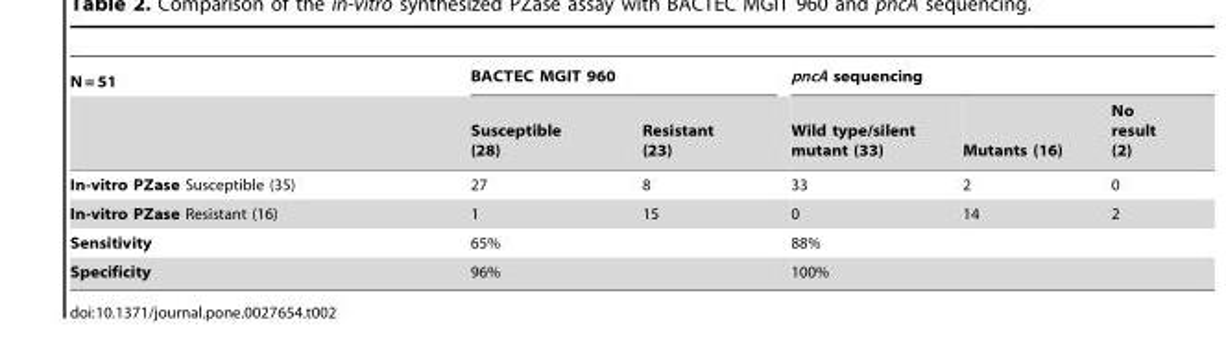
<table><thead><tr><td rowspan="2">N = 51</td><td colspan="2">BACTEC MGIT 960</td><td colspan="3">pncA sequencing</td></tr><tr><td>Susceptible (28)</td><td>Resistant (23)</td><td>Wild type/silent mutant (33)</td><td>Mutants (16)</td><td>No result (2)</td></tr></thead><tbody><tr><td>In-vitro PZase Susceptible (35)</td><td>27</td><td>8</td><td>33</td><td>2</td><td>0</td></tr><tr><td>In-vitro PZase Resistant (16)</td><td>1</td><td>15</td><td>0</td><td>14</td><td>2</td></tr><tr><td>Sensitivity</td><td colspan="2">65%</td><td colspan="3">88%</td></tr><tr><td>Specificity</td><td colspan="2">96%</td><td colspan="3">100%</td></tr></tbody></table>